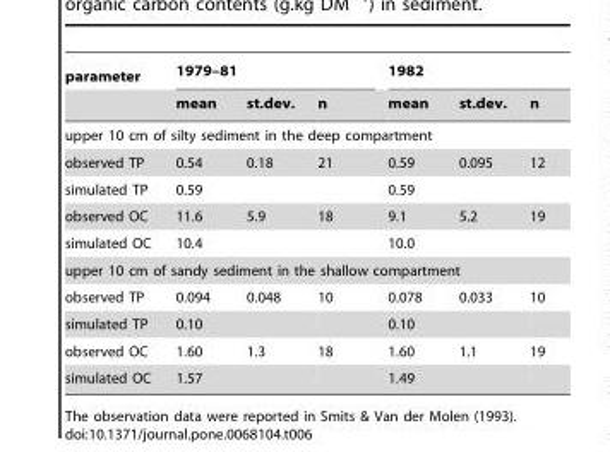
<table><thead><tr><td rowspan="2">parameter</td><td colspan="3">1979–81</td><td colspan="3">1982</td></tr><tr><td>mean</td><td>st.dev.</td><td>n</td><td>mean</td><td>st.dev.</td><td>n</td></tr></thead><tbody><tr><td colspan="7">upper 10 cm of silty sediment in the deep compartment</td></tr><tr><td>observed TP</td><td>0.54</td><td>0.18</td><td>21</td><td>0.59</td><td>0.095</td><td>12</td></tr><tr><td>simulated TP</td><td>0.59</td><td></td><td></td><td>0.59</td><td></td><td></td></tr><tr><td>observed OC</td><td>11.6</td><td>5.9</td><td>18</td><td>9.1</td><td>5.2</td><td>19</td></tr><tr><td>simulated OC</td><td>10.4</td><td></td><td></td><td>10.0</td><td></td><td></td></tr><tr><td colspan="7">upper 10 cm of sandy sediment in the shallow compartment</td></tr><tr><td>observed TP</td><td>0.094</td><td>0.048</td><td>10</td><td>0.078</td><td>0.033</td><td>10</td></tr><tr><td>simulated TP</td><td>0.10</td><td></td><td></td><td>0.10</td><td></td><td></td></tr><tr><td>observed OC</td><td>1.60</td><td>1.3</td><td>18</td><td>1.60</td><td>1.1</td><td>19</td></tr><tr><td>simulated OC</td><td>1.57</td><td></td><td></td><td>1.49</td><td></td><td></td></tr></tbody></table>